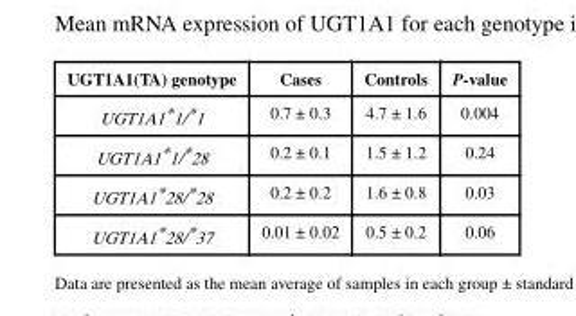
<table><thead><tr><td>UGT1A1(TA) genotype</td><td>Cases</td><td>Controls</td><td>P-value</td></tr></thead><tbody><tr><td>UGT1A1*1/*1</td><td>0.7 ± 0.3</td><td>4.7 ± 1.6</td><td>0.004</td></tr><tr><td>UGT1A1*1/*28</td><td>0.2 ± 0.1</td><td>1.5 ± 1.2</td><td>0.24</td></tr><tr><td>UGT1A1*28/*28</td><td>0.2 ± 0.2</td><td>1.6 ± 0.8</td><td>0.03</td></tr><tr><td>UGT1A1*28/*37</td><td>0.01 ± 0.02</td><td>0.5 ± 0.2</td><td>0.06</td></tr></tbody></table>